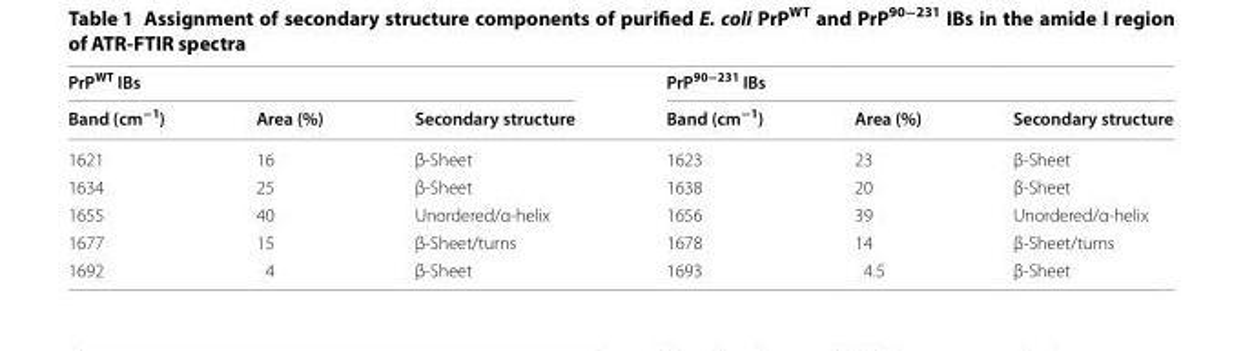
<table><thead><tr><td colspan="3">PrP<sup>WT</sup> IBs</td><td colspan="3">PrP<sup>90−231</sup> IBs</td></tr><tr><td>Band (cm<sup>−1</sup>)</td><td>Area (%)</td><td>Secondary structure</td><td>Band (cm<sup>−1</sup>)</td><td>Area (%)</td><td>Secondary structure</td></tr></thead><tbody><tr><td>1621</td><td>16</td><td>β-Sheet</td><td>1623</td><td>23</td><td>β-Sheet</td></tr><tr><td>1634</td><td>25</td><td>β-Sheet</td><td>1638</td><td>20</td><td>β-Sheet</td></tr><tr><td>1655</td><td>40</td><td>Unordered/α-helix</td><td>1656</td><td>39</td><td>Unordered/α-helix</td></tr><tr><td>1677</td><td>15</td><td>β-Sheet/turns</td><td>1678</td><td>14</td><td>β-Sheet/turns</td></tr><tr><td>1692</td><td>4</td><td>β-Sheet</td><td>1693</td><td>4.5</td><td>β-Sheet</td></tr></tbody></table>